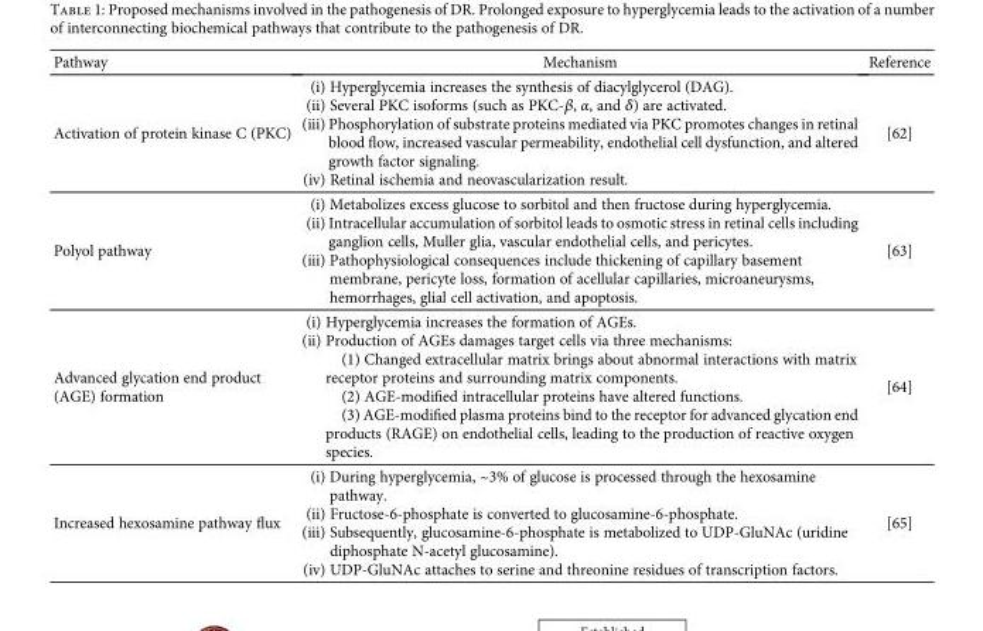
<table><thead><tr><td>Pathway</td><td>Mechanism</td><td>Reference</td></tr></thead><tbody><tr><td>Activation of protein kinase C (PKC)</td><td>(i) Hyperglycemia increases the synthesis of diacylglycerol (DAG). (ii) Several PKC isoforms (such as PKC-β, α, and δ) are activated. (iii) Phosphorylation of substrate proteins mediated via PKC promotes changes in retinal blood flow, increased vascular permeability, endothelial cell dysfunction, and altered growth factor signaling. (iv) Retinal ischemia and neovascularization result.</td><td>[62]</td></tr><tr><td>Polyol pathway</td><td>(i) Metabolizes excess glucose to sorbitol and then fructose during hyperglycemia. (ii) Intracellular accumulation of sorbitol leads to osmotic stress in retinal cells including ganglion cells, Muller glia, vascular endothelial cells, and pericytes. (iii) Pathophysiological consequences include thickening of capillary basement membrane, pericyte loss, formation of acellular capillaries, microaneurysms, hemorrhages, glial cell activation, and apoptosis.</td><td>[63]</td></tr><tr><td>Advanced glycation end product (AGE) formation</td><td>(i) Hyperglycemia increases the formation of AGEs. (ii) Production of AGEs damages target cells via three mechanisms: (1) Changed extracellular matrix brings about abnormal interactions with matrix receptor proteins and surrounding matrix components. (2) AGE-modified intracellular proteins have altered functions. (3) AGE-modified plasma proteins bind to the receptor for advanced glycation end products (RAGE) on endothelial cells, leading to the production of reactive oxygen species.</td><td>[64]</td></tr><tr><td>Increased hexosamine pathway flux</td><td>(i) During hyperglycemia, ~3% of glucose is processed through the hexosamine pathway. (ii) Fructose-6-phosphate is converted to glucosamine-6-phosphate. (iii) Subsequently, glucosamine-6-phosphate is metabolized to UDP-GluNAc (uridine diphosphate N-acetyl glucosamine). (iv) UDP-GluNAc attaches to serine and threonine residues of transcription factors.</td><td>[65]</td></tr></tbody></table>